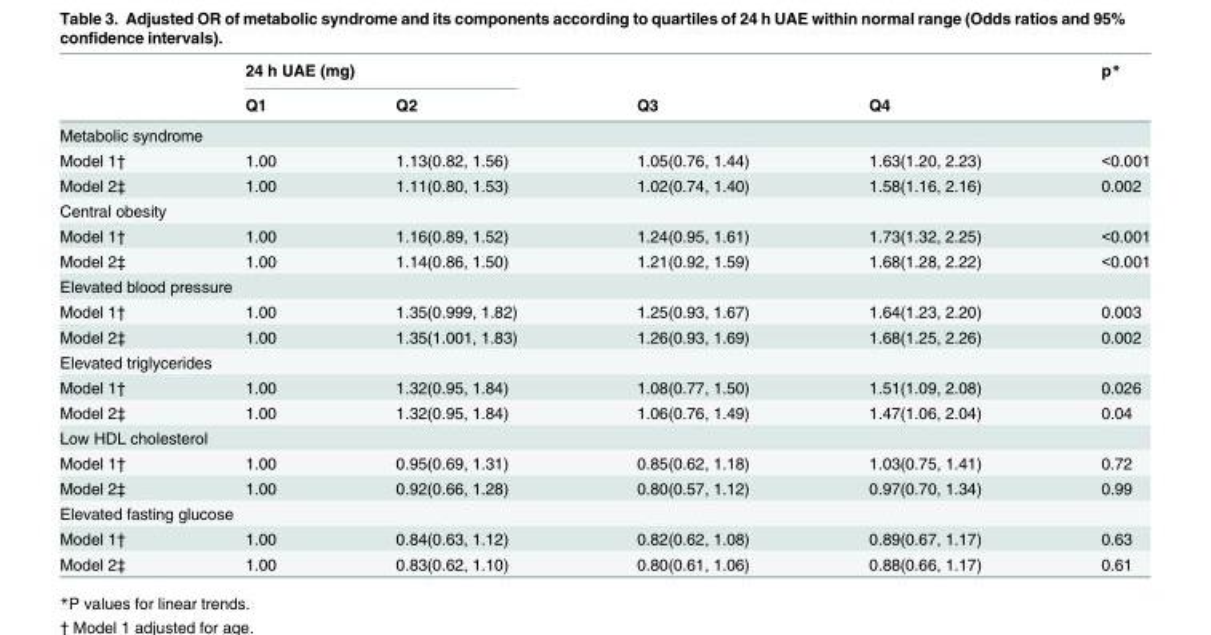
<table><thead><tr><td rowspan="2"></td><td colspan="2">24 h UAE (mg)</td><td rowspan="2">Q3</td><td rowspan="2">Q4</td><td rowspan="2">p*</td></tr><tr><td>Q1</td><td>Q2</td></tr></thead><tbody><tr><td colspan="6">Metabolic syndrome</td></tr><tr><td>Model 1†</td><td>1.00</td><td>1.13(0.82, 1.56)</td><td>1.05(0.76, 1.44)</td><td>1.63(1.20, 2.23)</td><td>&lt;0.001</td></tr><tr><td>Model 2‡</td><td>1.00</td><td>1.11(0.80, 1.53)</td><td>1.02(0.74, 1.40)</td><td>1.58(1.16, 2.16)</td><td>0.002</td></tr><tr><td colspan="6">Central obesity</td></tr><tr><td>Model 1†</td><td>1.00</td><td>1.16(0.89, 1.52)</td><td>1.24(0.95, 1.61)</td><td>1.73(1.32, 2.25)</td><td>&lt;0.001</td></tr><tr><td>Model 2‡</td><td>1.00</td><td>1.14(0.86, 1.50)</td><td>1.21(0.92, 1.59)</td><td>1.68(1.28, 2.22)</td><td>&lt;0.001</td></tr><tr><td colspan="6">Elevated blood pressure</td></tr><tr><td>Model 1†</td><td>1.00</td><td>1.35(0.999, 1.82)</td><td>1.25(0.93, 1.67)</td><td>1.64(1.23, 2.20)</td><td>0.003</td></tr><tr><td>Model 2‡</td><td>1.00</td><td>1.35(1.001, 1.83)</td><td>1.26(0.93, 1.69)</td><td>1.68(1.25, 2.26)</td><td>0.002</td></tr><tr><td colspan="6">Elevated triglycerides</td></tr><tr><td>Model 1†</td><td>1.00</td><td>1.32(0.95, 1.84)</td><td>1.08(0.77, 1.50)</td><td>1.51(1.09, 2.08)</td><td>0.026</td></tr><tr><td>Model 2‡</td><td>1.00</td><td>1.32(0.95, 1.84)</td><td>1.06(0.76, 1.49)</td><td>1.47(1.06, 2.04)</td><td>0.04</td></tr><tr><td colspan="6">Low HDL cholesterol</td></tr><tr><td>Model 1†</td><td>1.00</td><td>0.95(0.69, 1.31)</td><td>0.85(0.62, 1.18)</td><td>1.03(0.75, 1.41)</td><td>0.72</td></tr><tr><td>Model 2‡</td><td>1.00</td><td>0.92(0.66, 1.28)</td><td>0.80(0.57, 1.12)</td><td>0.97(0.70, 1.34)</td><td>0.99</td></tr><tr><td colspan="6">Elevated fasting glucose</td></tr><tr><td>Model 1†</td><td>1.00</td><td>0.84(0.63, 1.12)</td><td>0.82(0.62, 1.08)</td><td>0.89(0.67, 1.17)</td><td>0.63</td></tr><tr><td>Model 2‡</td><td>1.00</td><td>0.83(0.62, 1.10)</td><td>0.80(0.61, 1.06)</td><td>0.88(0.66, 1.17)</td><td>0.61</td></tr></tbody></table>